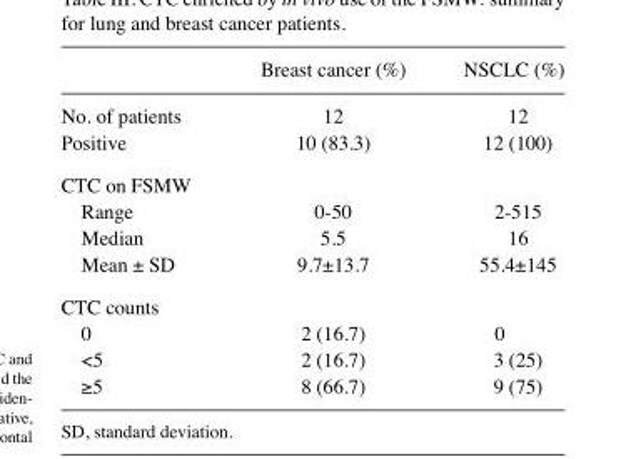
<table><thead><tr><td></td><td>Breast cancer (%)</td><td>NSCLC (%)</td></tr></thead><tbody><tr><td>No. of patients</td><td>12</td><td>12</td></tr><tr><td>Positive</td><td>10 (83.3)</td><td>12 (100)</td></tr><tr><td colspan="3">CTC on FSMW</td></tr><tr><td>Range</td><td>0-50</td><td>2-515</td></tr><tr><td>Median</td><td>5.5</td><td>16</td></tr><tr><td>Mean ± SD</td><td>9.7±13.7</td><td>55.4±145</td></tr><tr><td colspan="3">CTC counts</td></tr><tr><td>0</td><td>2 (16.7)</td><td>0</td></tr><tr><td>&lt;5</td><td>2 (16.7)</td><td>3 (25)</td></tr><tr><td>≥5</td><td>8 (66.7)</td><td>9 (75)</td></tr></tbody></table>